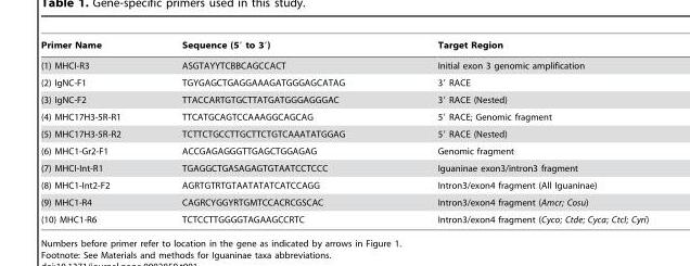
<table><thead><tr><td>Primer Name</td><td>Sequence (5′ to 3′)</td><td>Target Region</td></tr></thead><tbody><tr><td>(1) MHCI-R3</td><td>ASGTAYYTCBBCAGCCACT</td><td>Initial exon 3 genomic amplification</td></tr><tr><td>(2) IgNC-F1</td><td>TGYGAGCTGAGGAAAGATGGGAGCATAG</td><td>3′ RACE</td></tr><tr><td>(3) IgNC-F2</td><td>TTACCARTGTGCTTATGATGGGAGGGAC</td><td>3′ RACE (Nested)</td></tr><tr><td>(4) MHC17H3-5R-R1</td><td>TTCATGCAGTCCAAAGGCAGCAG</td><td>5′ RACE; Genomic fragment</td></tr><tr><td>(5) MHC17H3-5R-R2</td><td>TCTTCTGCCTTGCTTCTGTCAAATATGGAG</td><td>5′ RACE (Nested)</td></tr><tr><td>(6) MHC1-Gr2-F1</td><td>ACCGAGAGGGTTGAGCTGGAGAG</td><td>Genomic fragment</td></tr><tr><td>(7) MHCI-Int-R1</td><td>TGAGGCTGASAGAGTGTAATCCTCCC</td><td>Iguaninae exon3/intron3 fragment</td></tr><tr><td>(8) MHC1-Int2-F2</td><td>AGRTGTRTGTAATATATCATCCAGG</td><td>Intron3/exon4 fragment (All Iguaninae)</td></tr><tr><td>(9) MHC1-R4</td><td>CAGRCYGGYRTGMTCCACRCGSCAC</td><td>Intron3/exon4 fragment (Amcr; Cosu)</td></tr><tr><td>(10) MHC1-R6</td><td>TCTCCTTGGGGTAGAAGCCRTC</td><td>Intron3/exon4 fragment (Cyco; Ctde; Cyca; Ctcl; Cyri)</td></tr></tbody></table>